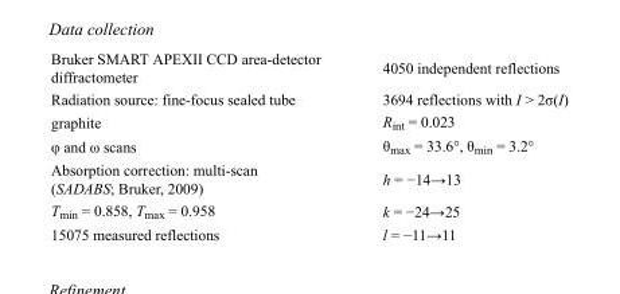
<table><tbody><tr><td>Bruker SMART APEXII CCD area-detector diffractometer</td><td>4050 independent reflections</td></tr><tr><td>Radiation source: fine-focus sealed tube</td><td>3694 reflections with I &gt; 2σ(I)</td></tr><tr><td>graphite</td><td>R<sub>int</sub> = 0.023</td></tr><tr><td>φ and ω scans</td><td>θ<sub>max</sub> = 33.6°, θ<sub>min</sub> = 3.2°</td></tr><tr><td>Absorption correction: multi-scan (SADABS; Bruker, 2009)</td><td>h = −14→13</td></tr><tr><td>T<sub>min</sub> = 0.858, T<sub>max</sub> = 0.958</td><td>k = −24→25</td></tr><tr><td>15075 measured reflections</td><td>l = −11→11</td></tr></tbody></table>